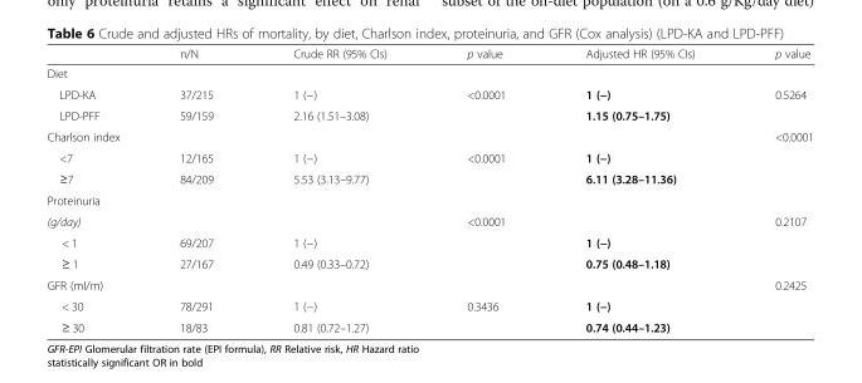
<table><thead><tr><td></td><td>n/N</td><td>Crude RR (95% CIs)</td><td>p value</td><td>Adjusted HR (95% CIs)</td><td>p value</td></tr></thead><tbody><tr><td colspan="6">Diet</td></tr><tr><td>LPD-KA</td><td>37/215</td><td>1 (−)</td><td>&lt;0.0001</td><td>1 (−)</td><td rowspan="2">0.5264</td></tr><tr><td>LPD-PFF</td><td>59/159</td><td>2.16 (1.51–3.08)</td><td></td><td>1.15 (0.75–1.75)</td></tr><tr><td colspan="5">Charlson index</td><td rowspan="3">&lt;0.0001</td></tr><tr><td>&lt;7</td><td>12/165</td><td>1 (−)</td><td>&lt;0.0001</td><td>1 (−)</td></tr><tr><td>≥7</td><td>84/209</td><td>5.53 (3.13–9.77)</td><td></td><td>6.11 (3.28–11.36)</td></tr><tr><td colspan="6">Proteinuria</td></tr><tr><td>(g/day)</td><td></td><td></td><td>&lt;0.0001</td><td></td><td rowspan="3">0.2107</td></tr><tr><td>&lt; 1</td><td>69/207</td><td>1 (−)</td><td></td><td>1 (−)</td></tr><tr><td>≥ 1</td><td>27/167</td><td>0.49 (0.33–0.72)</td><td></td><td>0.75 (0.48–1.18)</td></tr><tr><td colspan="5">GFR (ml/m)</td><td rowspan="3">0.2425</td></tr><tr><td>&lt; 30</td><td>78/291</td><td>1 (−)</td><td>0.3436</td><td>1 (−)</td></tr><tr><td>≥ 30</td><td>18/83</td><td>0.81 (0.72–1.27)</td><td></td><td>0.74 (0.44–1.23)</td></tr></tbody></table>